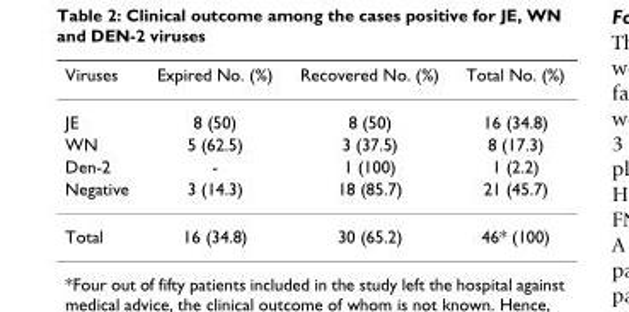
<table><thead><tr><td>Viruses</td><td>Expired No. (%)</td><td>Recovered No. (%)</td><td>Total No. (%)</td></tr></thead><tbody><tr><td>JE</td><td>8 (50)</td><td>8 (50)</td><td>16 (34.8)</td></tr><tr><td>WN</td><td>5 (62.5)</td><td>3 (37.5)</td><td>8 (17.3)</td></tr><tr><td>Den-2</td><td>-</td><td>1 (100)</td><td>1 (2.2)</td></tr><tr><td>Negative</td><td>3 (14.3)</td><td>18 (85.7)</td><td>21 (45.7)</td></tr><tr><td>Total</td><td>16 (34.8)</td><td>30 (65.2)</td><td>46* (100)</td></tr></tbody></table>